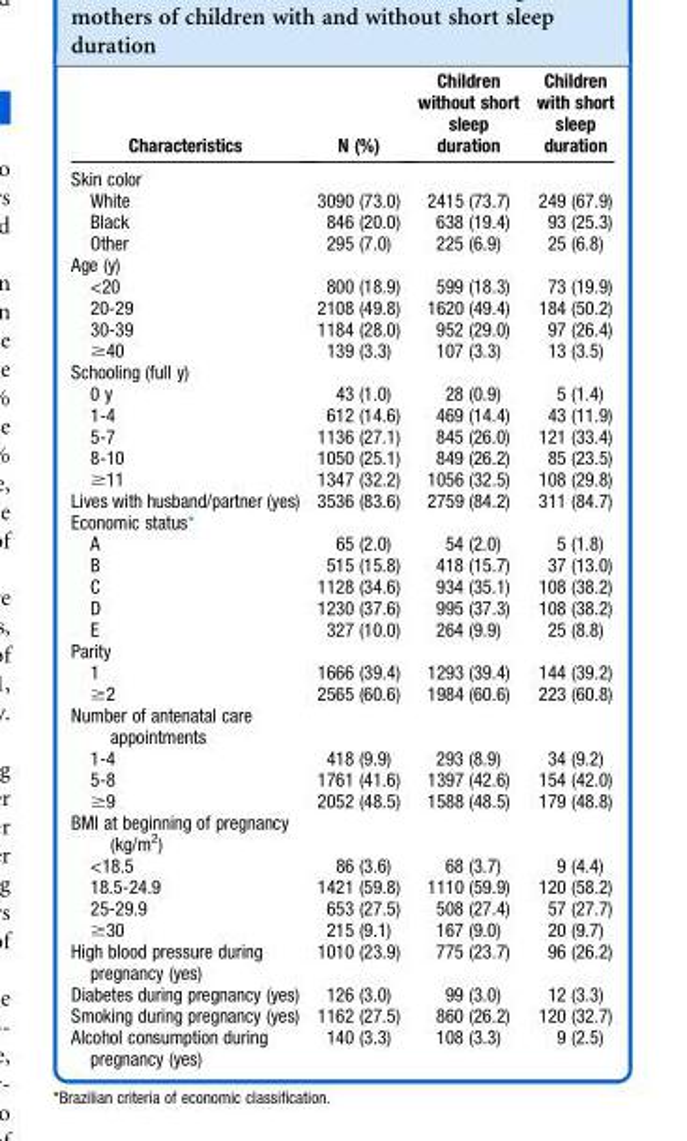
<table><thead><tr><td>Characteristics</td><td>N (%)</td><td>Children without short sleep duration</td><td>Children with short sleep duration</td></tr></thead><tbody><tr><td colspan="4">Skin color</td></tr><tr><td>White</td><td>3090 (73.0)</td><td>2415 (73.7)</td><td>249 (67.9)</td></tr><tr><td>Black</td><td>846 (20.0)</td><td>638 (19.4)</td><td>93 (25.3)</td></tr><tr><td>Other</td><td>295 (7.0)</td><td>225 (6.9)</td><td>25 (6.8)</td></tr><tr><td colspan="4">Age (y)</td></tr><tr><td>&lt;20</td><td>800 (18.9)</td><td>599 (18.3)</td><td>73 (19.9)</td></tr><tr><td>20-29</td><td>2108 (49.8)</td><td>1620 (49.4)</td><td>184 (50.2)</td></tr><tr><td>30-39</td><td>1184 (28.0)</td><td>952 (29.0)</td><td>97 (26.4)</td></tr><tr><td>≥40</td><td>139 (3.3)</td><td>107 (3.3)</td><td>13 (3.5)</td></tr><tr><td colspan="4">Schooling (full y)</td></tr><tr><td>0 y</td><td>43 (1.0)</td><td>28 (0.9)</td><td>5 (1.4)</td></tr><tr><td>1-4</td><td>612 (14.6)</td><td>469 (14.4)</td><td>43 (11.9)</td></tr><tr><td>5-7</td><td>1136 (27.1)</td><td>845 (26.0)</td><td>121 (33.4)</td></tr><tr><td>8-10</td><td>1050 (25.1)</td><td>849 (26.2)</td><td>85 (23.5)</td></tr><tr><td>≥11</td><td>1347 (32.2)</td><td>1056 (32.5)</td><td>108 (29.8)</td></tr><tr><td>Lives with husband/partner (yes)</td><td>3536 (83.6)</td><td>2759 (84.2)</td><td>311 (84.7)</td></tr><tr><td colspan="4">Economic status*</td></tr><tr><td>A</td><td>65 (2.0)</td><td>54 (2.0)</td><td>5 (1.8)</td></tr><tr><td>B</td><td>515 (15.8)</td><td>418 (15.7)</td><td>37 (13.0)</td></tr><tr><td>C</td><td>1128 (34.6)</td><td>934 (35.1)</td><td>108 (38.2)</td></tr><tr><td>D</td><td>1230 (37.6)</td><td>995 (37.3)</td><td>108 (38.2)</td></tr><tr><td>E</td><td>327 (10.0)</td><td>264 (9.9)</td><td>25 (8.8)</td></tr><tr><td colspan="4">Parity</td></tr><tr><td>1</td><td>1666 (39.4)</td><td>1293 (39.4)</td><td>144 (39.2)</td></tr><tr><td>≥2</td><td>2565 (60.6)</td><td>1984 (60.6)</td><td>223 (60.8)</td></tr><tr><td colspan="4">Number of antenatal care appointments</td></tr><tr><td>1-4</td><td>418 (9.9)</td><td>293 (8.9)</td><td>34 (9.2)</td></tr><tr><td>5-8</td><td>1761 (41.6)</td><td>1397 (42.6)</td><td>154 (42.0)</td></tr><tr><td>≥9</td><td>2052 (48.5)</td><td>1588 (48.5)</td><td>179 (48.8)</td></tr><tr><td colspan="4">BMI at beginning of pregnancy (kg/m<sup>2</sup>)</td></tr><tr><td>&lt;18.5</td><td>86 (3.6)</td><td>68 (3.7)</td><td>9 (4.4)</td></tr><tr><td>18.5-24.9</td><td>1421 (59.8)</td><td>1110 (59.9)</td><td>120 (58.2)</td></tr><tr><td>25-29.9</td><td>653 (27.5)</td><td>508 (27.4)</td><td>57 (27.7)</td></tr><tr><td>≥30</td><td>215 (9.1)</td><td>167 (9.0)</td><td>20 (9.7)</td></tr><tr><td>High blood pressure during pregnancy (yes)</td><td>1010 (23.9)</td><td>775 (23.7)</td><td>96 (26.2)</td></tr><tr><td>Diabetes during pregnancy (yes)</td><td>126 (3.0)</td><td>99 (3.0)</td><td>12 (3.3)</td></tr><tr><td>Smoking during pregnancy (yes)</td><td>1162 (27.5)</td><td>860 (26.2)</td><td>120 (32.7)</td></tr><tr><td>Alcohol consumption during pregnancy (yes)</td><td>140 (3.3)</td><td>108 (3.3)</td><td>9 (2.5)</td></tr></tbody></table>